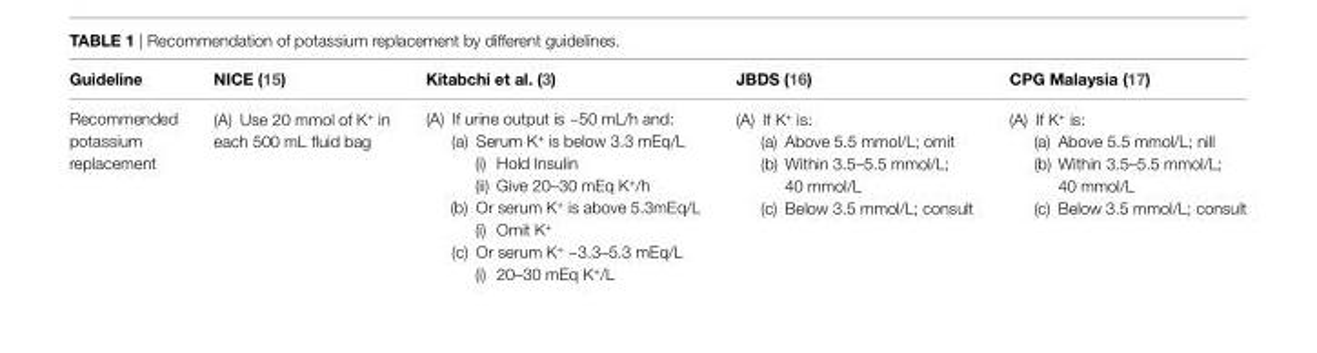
<table><thead><tr><td>Guideline</td><td>niCE (15)</td><td>Kitabchi et al. (3)</td><td>JBDS (16)</td><td>CpG Malaysia (17)</td></tr></thead><tbody><tr><td>Recommended potassium replacement</td><td>(A) Use 20 mmol of K<sup>+</sup> in each 500 mL fluid bag</td><td>(A) If urine output is ~50 mL/h and: (a) Serum K<sup>+</sup> is below 3.3 mEq/L (i) Hold Insulin (ii) Give 20–30 mEq K<sup>+</sup>/h (b) Or serum K<sup>+</sup> is above 5.3mEq/L (i) Omit K<sup>+</sup> (c) Or serum K<sup>+</sup> ~3.3–5.3 mEq/L (i) 20–30 mEq K<sup>+</sup>/L</td><td>(A) If K<sup>+</sup> is: (a) Above 5.5 mmol/L; omit (b) Within 3.5–5.5 mmol/L; 40 mmol/L (c) Below 3.5 mmol/L; consult</td><td>(A) If K<sup>+</sup> is: (a) Above 5.5 mmol/L; nill (b) Within 3.5–5.5 mmol/L; 40 mmol/L (c) Below 3.5 mmol/L; consult</td></tr></tbody></table>